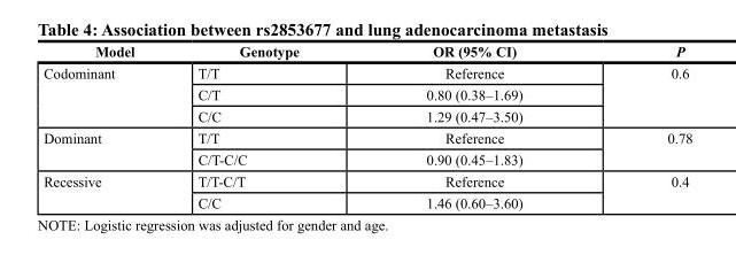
<table><thead><tr><td>Model</td><td>Genotype</td><td>or (95% cI)</td><td>P</td></tr></thead><tbody><tr><td rowspan="3">Codominant</td><td>T/T</td><td>Reference</td><td rowspan="3">0.6</td></tr><tr><td>C/T</td><td>0.80 (0.38–1.69)</td></tr><tr><td>C/C</td><td>1.29 (0.47–3.50)</td></tr><tr><td rowspan="2">Dominant</td><td>T/T</td><td>Reference</td><td rowspan="2">0.78</td></tr><tr><td>C/T-C/C</td><td>0.90 (0.45–1.83)</td></tr><tr><td rowspan="2">Recessive</td><td>T/T-C/T</td><td>Reference</td><td rowspan="2">0.4</td></tr><tr><td>C/C</td><td>1.46 (0.60–3.60)</td></tr></tbody></table>